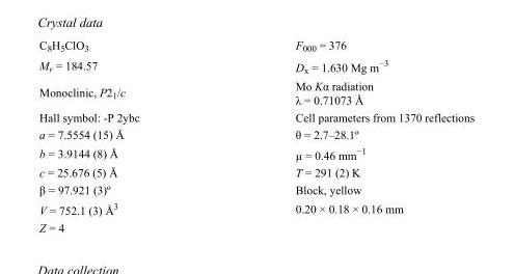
<table><tbody><tr><td>C<sub>8</sub>H<sub>5</sub>ClO<sub>3</sub></td><td>F<sub>000</sub> = 376</td></tr><tr><td>M<sub>r</sub> = 184.57</td><td>D<sub>x</sub> = 1.630 Mg m<sup>−3</sup></td></tr><tr><td>Monoclinic, P2<sub>1</sub>/c</td><td>Mo Kα radiation λ = 0.71073 Å</td></tr><tr><td>Hall symbol: -P 2ybc</td><td>Cell parameters from 1370 reflections</td></tr><tr><td>a = 7.5554 (15) Å</td><td>θ = 2.7–28.1º</td></tr><tr><td>b = 3.9144 (8) Å</td><td>µ = 0.46 mm<sup>−1</sup></td></tr><tr><td>c = 25.676 (5) Å</td><td>T = 291 (2) K</td></tr><tr><td>β = 97.921 (3)º</td><td>Block, yellow</td></tr><tr><td>V = 752.1 (3) Å<sup>3</sup></td><td>0.20 × 0.18 × 0.16 mm</td></tr><tr><td>Z = 4</td><td></td></tr></tbody></table>